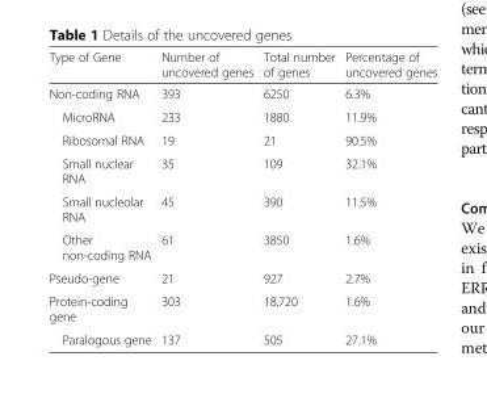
<table><thead><tr><td>Type of Gene</td><td>Number of uncovered genes</td><td>Total number of genes</td><td>Percentage of uncovered genes</td></tr></thead><tbody><tr><td>Non-coding RNA</td><td>393</td><td>6250</td><td>6.3%</td></tr><tr><td>MicroRNA</td><td>233</td><td>1880</td><td>11.9%</td></tr><tr><td>Ribosomal RNA</td><td>19</td><td>21</td><td>90.5%</td></tr><tr><td>Small nuclear RNA</td><td>35</td><td>109</td><td>32.1%</td></tr><tr><td>Small nucleolar RNA</td><td>45</td><td>390</td><td>11.5%</td></tr><tr><td>Other non-coding RNA</td><td>61</td><td>3850</td><td>1.6%</td></tr><tr><td>Pseudo-gene</td><td>21</td><td>927</td><td>2.7%</td></tr><tr><td>Protein-coding gene</td><td>303</td><td>18,720</td><td>1.6%</td></tr><tr><td>Paralogous gene</td><td>137</td><td>505</td><td>27.1%</td></tr></tbody></table>